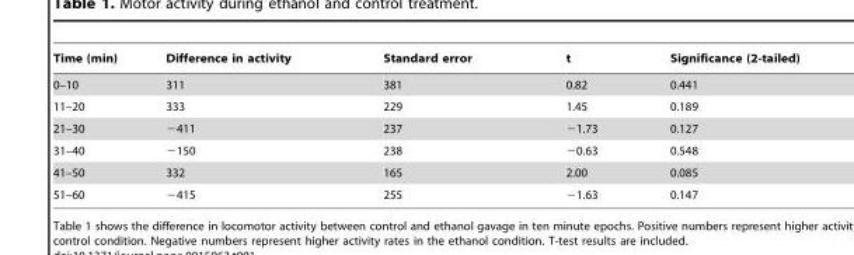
<table><thead><tr><td>Time (min)</td><td>Difference in activity</td><td>Standard error</td><td>t</td><td>Significance (2-tailed)</td></tr></thead><tbody><tr><td>0–10</td><td>311</td><td>381</td><td>0.82</td><td>0.441</td></tr><tr><td>11–20</td><td>333</td><td>229</td><td>1.45</td><td>0.189</td></tr><tr><td>21–30</td><td>−411</td><td>237</td><td>−1.73</td><td>0.127</td></tr><tr><td>31–40</td><td>−150</td><td>238</td><td>−0.63</td><td>0.548</td></tr><tr><td>41–50</td><td>332</td><td>165</td><td>2.00</td><td>0.085</td></tr><tr><td>51–60</td><td>−415</td><td>255</td><td>−1.63</td><td>0.147</td></tr></tbody></table>